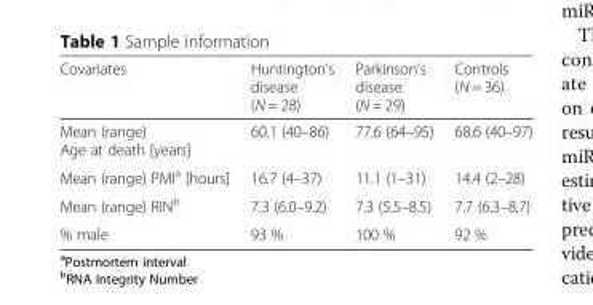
<table><thead><tr><td>Covariates</td><td>Huntington’s disease (N = 28)</td><td>Parkinson’s disease (N = 29)</td><td>Controls (N = 36)</td></tr></thead><tbody><tr><td>Mean (range) Age at death [years]</td><td>60.1 (40–86)</td><td>77.6 (64–95)</td><td>68.6 (40–97)</td></tr><tr><td>Mean (range) PMI<sup>a</sup> [hours]</td><td>16.7 (4–37)</td><td>11.1 (1–31)</td><td>14.4 (2–28)</td></tr><tr><td>Mean (range) RIN<sup>b</sup></td><td>7.3 (6.0–9.2)</td><td>7.3 (5.5–8.5)</td><td>7.7 (6.3–8.7)</td></tr><tr><td>% male</td><td>93 %</td><td>100 %</td><td>92 %</td></tr></tbody></table>